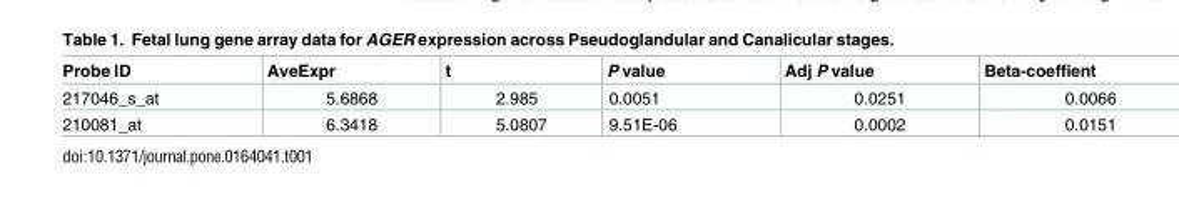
<table><thead><tr><td>Probe ID</td><td>AveExpr</td><td>t</td><td>P value</td><td>Adj P value</td><td>Beta-coeffient</td></tr></thead><tbody><tr><td>217046_s_at</td><td>5.6868</td><td>2.985</td><td>0.0051</td><td>0.0251</td><td>0.0066</td></tr><tr><td>210081_at</td><td>6.3418</td><td>5.0807</td><td>9.51E-06</td><td>0.0002</td><td>0.0151</td></tr></tbody></table>